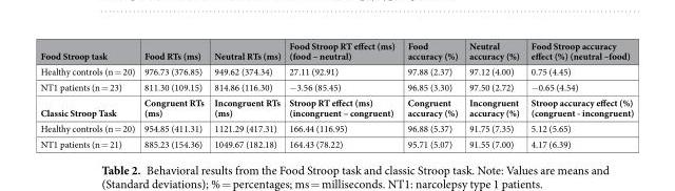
<table><thead><tr><td>Food Stroop task</td><td>Food RTs (ms)</td><td>Neutral RTs (ms)</td><td>Food Stroop RT effect (ms) (food – neutral)</td><td>Food accuracy (%)</td><td>Neutral accuracy (%)</td><td>Food Stroop accuracy effect (%) (neutral –food)</td></tr></thead><tbody><tr><td>Healthy controls (n = 20)</td><td>976.73 (376.85)</td><td>949.62 (374.34)</td><td>27.11 (92.91)</td><td>97.88 (2.37)</td><td>97.12 (4.00)</td><td>0.75 (4.45)</td></tr><tr><td>NT1 patients (n = 23)</td><td>811.30 (109.15)</td><td>814.86 (116.30)</td><td>−3.56 (85.45)</td><td>96.85 (3.30)</td><td>97.50 (2.72)</td><td>−0.65 (4.54)</td></tr><tr><td>Classic Stroop Task</td><td>Congruent RTs (ms)</td><td>Incongruent RTs (ms)</td><td>Stroop RT effect (ms) (incongruent – congruent)</td><td>Congruent accuracy (%)</td><td>Incongruent accuracy (%)</td><td>Stroop accuracy effect (%) (congruent - incongruent)</td></tr><tr><td>Healthy controls (n = 20)</td><td>954.85 (411.31)</td><td>1121.29 (417.31)</td><td>166.44 (116.95)</td><td>96.88 (5.37)</td><td>91.75 (7.35)</td><td>5.12 (5.65)</td></tr><tr><td>NT1 patients (n = 21)</td><td>885.23 (154.36)</td><td>1049.67 (182.18)</td><td>164.43 (78.22)</td><td>95.71 (5.07)</td><td>91.55 (7.00)</td><td>4.17 (6.39)</td></tr></tbody></table>